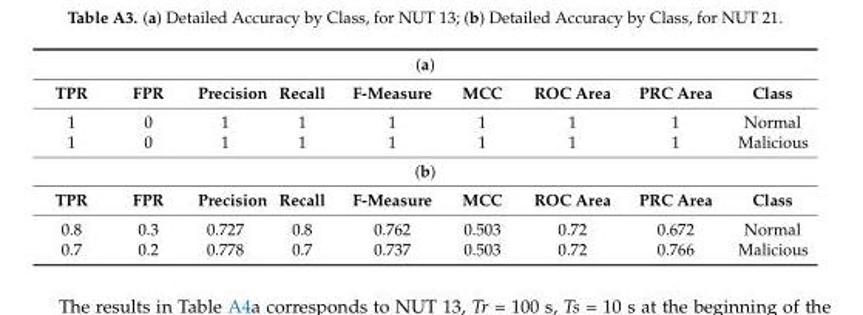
<table><tbody><tr><td colspan="9">(a)</td></tr><tr><td>TPR</td><td>FPR</td><td>Precision</td><td>Recall</td><td>F-Measure</td><td>MCC</td><td>ROC Area</td><td>PRC Area</td><td>Class</td></tr><tr><td>1</td><td>0</td><td>1</td><td>1</td><td>1</td><td>1</td><td>1</td><td>1</td><td>Normal</td></tr><tr><td>1</td><td>0</td><td>1</td><td>1</td><td>1</td><td>1</td><td>1</td><td>1</td><td>Malicious</td></tr><tr><td colspan="9">(b)</td></tr><tr><td>TPR</td><td>FPR</td><td>Precision</td><td>Recall</td><td>F-Measure</td><td>MCC</td><td>ROC Area</td><td>PRC Area</td><td>Class</td></tr><tr><td>0.8</td><td>0.3</td><td>0.727</td><td>0.8</td><td>0.762</td><td>0.503</td><td>0.72</td><td>0.672</td><td>Normal</td></tr><tr><td>0.7</td><td>0.2</td><td>0.778</td><td>0.7</td><td>0.737</td><td>0.503</td><td>0.72</td><td>0.766</td><td>Malicious</td></tr></tbody></table>